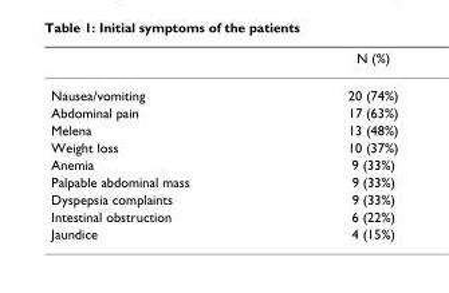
<table><thead><tr><td></td><td>N (%)</td></tr></thead><tbody><tr><td>Nausea/vomiting</td><td>20 (74%)</td></tr><tr><td>Abdominal pain</td><td>17 (63%)</td></tr><tr><td>Melena</td><td>13 (48%)</td></tr><tr><td>Weight loss</td><td>10 (37%)</td></tr><tr><td>Anemia</td><td>9 (33%)</td></tr><tr><td>Palpable abdominal mass</td><td>9 (33%)</td></tr><tr><td>Dyspepsia complaints</td><td>9 (33%)</td></tr><tr><td>Intestinal obstruction</td><td>6 (22%)</td></tr><tr><td>Jaundice</td><td>4 (15%)</td></tr></tbody></table>